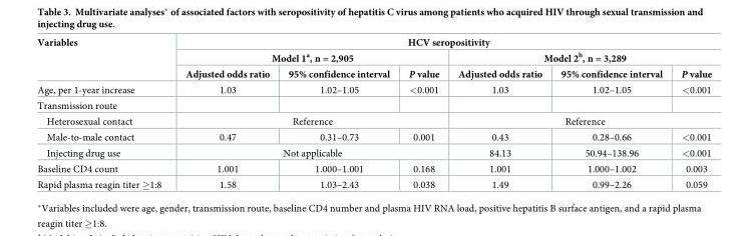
<table><thead><tr><td rowspan="3">Variables</td><td colspan="6">HCV seropositivity</td></tr><tr><td colspan="3">Model 1<sup>a</sup>, n = 2,905</td><td colspan="3">Model 2<sup>b</sup>, n = 3,289</td></tr><tr><td>Adjusted odds ratio</td><td>95% confidence interval</td><td>P value</td><td>Adjusted odds ratio</td><td>95% confidence interval</td><td>P value</td></tr></thead><tbody><tr><td>Age, per 1-year increase</td><td>1.03</td><td>1.02–1.05</td><td>&lt;0.001</td><td>1.03</td><td>1.02–1.05</td><td>&lt;0.001</td></tr><tr><td colspan="7">Transmission route</td></tr><tr><td>Heterosexual contact</td><td colspan="3">Reference</td><td colspan="3">Reference</td></tr><tr><td>Male-to-male contact</td><td>0.47</td><td>0.31–0.73</td><td>0.001</td><td>0.43</td><td>0.28–0.66</td><td>&lt;0.001</td></tr><tr><td>Injecting drug use</td><td colspan="3">Not applicable</td><td>84.13</td><td>50.94–138.96</td><td>&lt;0.001</td></tr><tr><td>Baseline CD4 count</td><td>1.001</td><td>1.000–1.001</td><td>0.168</td><td>1.001</td><td>1.000–1.002</td><td>0.003</td></tr><tr><td>Rapid plasma reagin titer ≥1:8</td><td>1.58</td><td>1.03–2.43</td><td>0.038</td><td>1.49</td><td>0.99–2.26</td><td>0.059</td></tr></tbody></table>